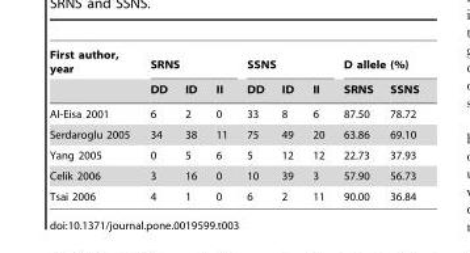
<table><thead><tr><td rowspan="2">First author, year</td><td colspan="3">SRNS</td><td colspan="3">SSNS</td><td colspan="2">D allele (%)</td></tr><tr><td>DD</td><td>ID</td><td>II</td><td>DD</td><td>ID</td><td>II</td><td>SRNS</td><td>SSNS</td></tr></thead><tbody><tr><td>AI-Eisa 2001</td><td>6</td><td>2</td><td>0</td><td>33</td><td>8</td><td>6</td><td>87.50</td><td>78.72</td></tr><tr><td>Serdaroglu 2005</td><td>34</td><td>38</td><td>11</td><td>75</td><td>49</td><td>20</td><td>63.86</td><td>69.10</td></tr><tr><td>Yang 2005</td><td>0</td><td>5</td><td>6</td><td>5</td><td>12</td><td>12</td><td>22.73</td><td>37.93</td></tr><tr><td>Celik 2006</td><td>3</td><td>16</td><td>0</td><td>10</td><td>39</td><td>3</td><td>57.90</td><td>56.73</td></tr><tr><td>Tsai 2006</td><td>4</td><td>1</td><td>0</td><td>6</td><td>2</td><td>11</td><td>90.00</td><td>36.84</td></tr></tbody></table>